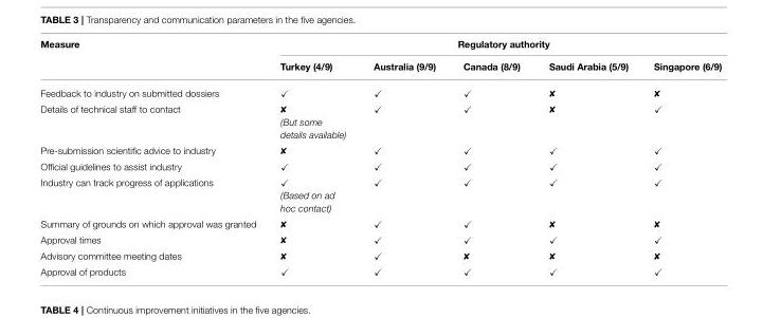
<table><thead><tr><td rowspan="2">Measure</td><td colspan="5">Regulatory authority</td></tr><tr><td>Turkey (4/9)</td><td>Australia (9/9)</td><td>Canada (8/9)</td><td>Saudi Arabia (5/9)</td><td>Singapore (6/9)</td></tr></thead><tbody><tr><td>Feedback to industry on submitted dossiers</td><td>✓</td><td>✓</td><td>✓</td><td></td><td></td></tr><tr><td>Details of technical staff to contact</td><td>(But some details available)</td><td>✓</td><td>✓</td><td></td><td>✓</td></tr><tr><td>Pre-submission scientific advice to industry</td><td></td><td>✓</td><td>✓</td><td>✓</td><td>✓</td></tr><tr><td>Official guidelines to assist industry</td><td>✓</td><td>✓</td><td>✓</td><td>✓</td><td>✓</td></tr><tr><td>Industry can track progress of applications</td><td>✓ (Based on ad hoc contact)</td><td>✓</td><td>✓</td><td>✓</td><td>✓</td></tr><tr><td>Summary of grounds on which approval was granted</td><td></td><td>✓</td><td>✓</td><td></td><td></td></tr><tr><td>Approval times</td><td></td><td>✓</td><td>✓</td><td>✓</td><td>✓</td></tr><tr><td>Advisory committee meeting dates</td><td></td><td>✓</td><td></td><td></td><td></td></tr><tr><td>Approval of products</td><td>✓</td><td>✓</td><td>✓</td><td>✓</td><td>✓</td></tr></tbody></table>